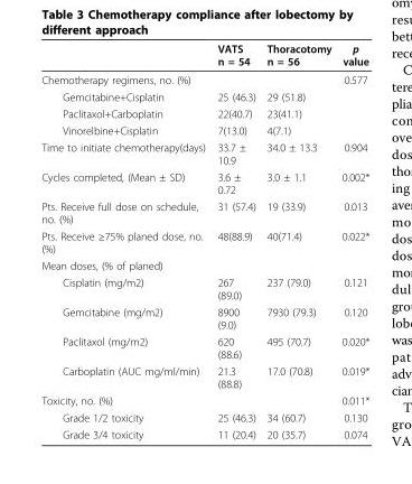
<table><thead><tr><td></td><td>VATS n = 54</td><td>Thoracotomy n = 56</td><td>p value</td></tr></thead><tbody><tr><td>Chemotherapy regimens, no. (%)</td><td></td><td></td><td>0.577</td></tr><tr><td>Gemcitabine+Cisplatin</td><td>25 (46.3)</td><td>29 (51.8)</td><td></td></tr><tr><td>Paclitaxol+Carboplatin</td><td>22(40.7)</td><td>23(41.1)</td><td></td></tr><tr><td>Vinorelbine+Cisplatin</td><td>7(13.0)</td><td>4(7.1)</td><td></td></tr><tr><td>Time to initiate chemotherapy(days)</td><td>33.7 ± 10.9</td><td>34.0 ± 13.3</td><td>0.904</td></tr><tr><td>Cycles completed, (Mean ± SD)</td><td>3.6 ± 0.72</td><td>3.0 ± 1.1</td><td>0.002*</td></tr><tr><td>Pts. Receive full dose on schedule, no. (%)</td><td>31 (57.4)</td><td>19 (33.9)</td><td>0.013</td></tr><tr><td>Pts. Receive ≥75% planed dose, no. (%)</td><td>48(88.9)</td><td>40(71.4)</td><td>0.022*</td></tr><tr><td colspan="4">Mean doses, (% of planed)</td></tr><tr><td>Cisplatin (mg/m2)</td><td>267 (89.0)</td><td>237 (79.0)</td><td>0.121</td></tr><tr><td>Gemcitabine (mg/m2)</td><td>8900 (9.0)</td><td>7930 (79.3)</td><td>0.120</td></tr><tr><td>Paclitaxol (mg/m2)</td><td>620 (88.6)</td><td>495 (70.7)</td><td>0.020*</td></tr><tr><td>Carboplatin (AUC mg/ml/min)</td><td>21.3 (88.8)</td><td>17.0 (70.8)</td><td>0.019*</td></tr><tr><td>Toxicity, no. (%)</td><td></td><td></td><td>0.011*</td></tr><tr><td>Grade 1/2 toxicity</td><td>25 (46.3)</td><td>34 (60.7)</td><td>0.130</td></tr><tr><td>Grade 3/4 toxicity</td><td>11 (20.4)</td><td>20 (35.7)</td><td>0.074</td></tr></tbody></table>